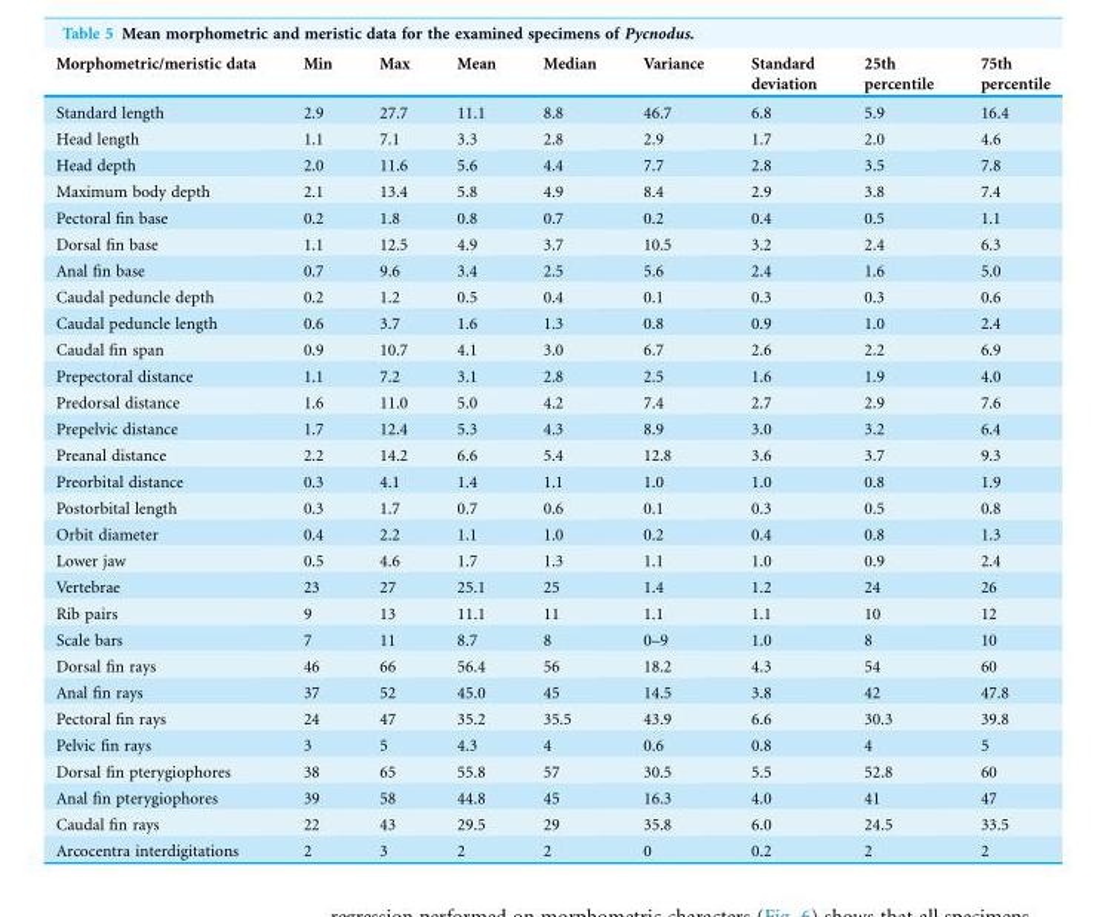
<table><thead><tr><td>Morphometric/meristic data</td><td>Min</td><td>Max</td><td>Mean</td><td>Median</td><td>Variance</td><td>Standard deviation</td><td>25th percentile</td><td>75th percentile</td></tr></thead><tbody><tr><td>Standard length</td><td>2.9</td><td>27.7</td><td>11.1</td><td>8.8</td><td>46.7</td><td>6.8</td><td>5.9</td><td>16.4</td></tr><tr><td>Head length</td><td>1.1</td><td>7.1</td><td>3.3</td><td>2.8</td><td>2.9</td><td>1.7</td><td>2.0</td><td>4.6</td></tr><tr><td>Head depth</td><td>2.0</td><td>11.6</td><td>5.6</td><td>4.4</td><td>7.7</td><td>2.8</td><td>3.5</td><td>7.8</td></tr><tr><td>Maximum body depth</td><td>2.1</td><td>13.4</td><td>5.8</td><td>4.9</td><td>8.4</td><td>2.9</td><td>3.8</td><td>7.4</td></tr><tr><td>Pectoral fin base</td><td>0.2</td><td>1.8</td><td>0.8</td><td>0.7</td><td>0.2</td><td>0.4</td><td>0.5</td><td>1.1</td></tr><tr><td>Dorsal fin base</td><td>1.1</td><td>12.5</td><td>4.9</td><td>3.7</td><td>10.5</td><td>3.2</td><td>2.4</td><td>6.3</td></tr><tr><td>Anal fin base</td><td>0.7</td><td>9.6</td><td>3.4</td><td>2.5</td><td>5.6</td><td>2.4</td><td>1.6</td><td>5.0</td></tr><tr><td>Caudal peduncle depth</td><td>0.2</td><td>1.2</td><td>0.5</td><td>0.4</td><td>0.1</td><td>0.3</td><td>0.3</td><td>0.6</td></tr><tr><td>Caudal peduncle length</td><td>0.6</td><td>3.7</td><td>1.6</td><td>1.3</td><td>0.8</td><td>0.9</td><td>1.0</td><td>2.4</td></tr><tr><td>Caudal fin span</td><td>0.9</td><td>10.7</td><td>4.1</td><td>3.0</td><td>6.7</td><td>2.6</td><td>2.2</td><td>6.9</td></tr><tr><td>Prepectoral distance</td><td>1.1</td><td>7.2</td><td>3.1</td><td>2.8</td><td>2.5</td><td>1.6</td><td>1.9</td><td>4.0</td></tr><tr><td>Predorsal distance</td><td>1.6</td><td>11.0</td><td>5.0</td><td>4.2</td><td>7.4</td><td>2.7</td><td>2.9</td><td>7.6</td></tr><tr><td>Prepelvic distance</td><td>1.7</td><td>12.4</td><td>5.3</td><td>4.3</td><td>8.9</td><td>3.0</td><td>3.2</td><td>6.4</td></tr><tr><td>Preanal distance</td><td>2.2</td><td>14.2</td><td>6.6</td><td>5.4</td><td>12.8</td><td>3.6</td><td>3.7</td><td>9.3</td></tr><tr><td>Preorbital distance</td><td>0.3</td><td>4.1</td><td>1.4</td><td>1.1</td><td>1.0</td><td>1.0</td><td>0.8</td><td>1.9</td></tr><tr><td>Postorbital length</td><td>0.3</td><td>1.7</td><td>0.7</td><td>0.6</td><td>0.1</td><td>0.3</td><td>0.5</td><td>0.8</td></tr><tr><td>Orbit diameter</td><td>0.4</td><td>2.2</td><td>1.1</td><td>1.0</td><td>0.2</td><td>0.4</td><td>0.8</td><td>1.3</td></tr><tr><td>Lower jaw</td><td>0.5</td><td>4.6</td><td>1.7</td><td>1.3</td><td>1.1</td><td>1.0</td><td>0.9</td><td>2.4</td></tr><tr><td>Vertebrae</td><td>23</td><td>27</td><td>25.1</td><td>25</td><td>1.4</td><td>1.2</td><td>24</td><td>26</td></tr><tr><td>Rib pairs</td><td>9</td><td>13</td><td>11.1</td><td>11</td><td>1.1</td><td>1.1</td><td>10</td><td>12</td></tr><tr><td>Scale bars</td><td>7</td><td>11</td><td>8.7</td><td>8</td><td>0–9</td><td>1.0</td><td>8</td><td>10</td></tr><tr><td>Dorsal fin rays</td><td>46</td><td>66</td><td>56.4</td><td>56</td><td>18.2</td><td>4.3</td><td>54</td><td>60</td></tr><tr><td>Anal fin rays</td><td>37</td><td>52</td><td>45.0</td><td>45</td><td>14.5</td><td>3.8</td><td>42</td><td>47.8</td></tr><tr><td>Pectoral fin rays</td><td>24</td><td>47</td><td>35.2</td><td>35.5</td><td>43.9</td><td>6.6</td><td>30.3</td><td>39.8</td></tr><tr><td>Pelvic fin rays</td><td>3</td><td>5</td><td>4.3</td><td>4</td><td>0.6</td><td>0.8</td><td>4</td><td>5</td></tr><tr><td>Dorsal fin pterygiophores</td><td>38</td><td>65</td><td>55.8</td><td>57</td><td>30.5</td><td>5.5</td><td>52.8</td><td>60</td></tr><tr><td>Anal fin pterygiophores</td><td>39</td><td>58</td><td>44.8</td><td>45</td><td>16.3</td><td>4.0</td><td>41</td><td>47</td></tr><tr><td>Caudal fin rays</td><td>22</td><td>43</td><td>29.5</td><td>29</td><td>35.8</td><td>6.0</td><td>24.5</td><td>33.5</td></tr><tr><td>Arcocentra interdigitations</td><td>2</td><td>3</td><td>2</td><td>2</td><td>0</td><td>0.2</td><td>2</td><td>2</td></tr></tbody></table>